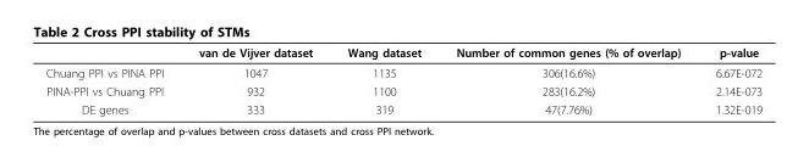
<table><thead><tr><td></td><td>van de Vijver dataset</td><td>Wang dataset</td><td>Number of common genes (% of overlap)</td><td>p-value</td></tr></thead><tbody><tr><td>Chuang PPI vs PINA PPI</td><td>1047</td><td>1135</td><td>306(16.6%)</td><td>6.67E-072</td></tr><tr><td>PINA-PPI vs Chuang PPI</td><td>932</td><td>1100</td><td>283(16.2%)</td><td>2.14E-073</td></tr><tr><td>DE genes</td><td>333</td><td>319</td><td>47(7.76%)</td><td>1.32E-019</td></tr></tbody></table>